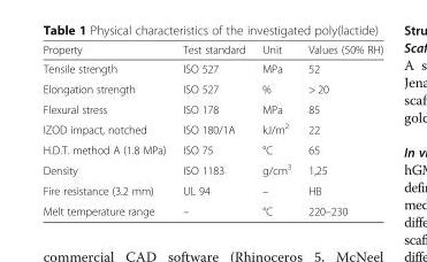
<table><thead><tr><td>Property</td><td>Test standard</td><td>Unit</td><td>Values (50% RH)</td></tr></thead><tbody><tr><td>Tensile strength</td><td>ISO 527</td><td>MPa</td><td>52</td></tr><tr><td>Elongation strength</td><td>ISO 527</td><td>%</td><td>&gt; 20</td></tr><tr><td>Flexural stress</td><td>ISO 178</td><td>MPa</td><td>85</td></tr><tr><td>IZOD impact, notched</td><td>ISO 180/1A</td><td>kJ/m<sup>2</sup></td><td>22</td></tr><tr><td>H.D.T. method A (1.8 MPa)</td><td>ISO 75</td><td>°C</td><td>65</td></tr><tr><td>Density</td><td>ISO 1183</td><td>g/cm<sup>3</sup></td><td>1,25</td></tr><tr><td>Fire resistance (3.2 mm)</td><td>UL 94</td><td>–</td><td>HB</td></tr><tr><td>Melt temperature range</td><td>–</td><td>°C</td><td>220–230</td></tr></tbody></table>